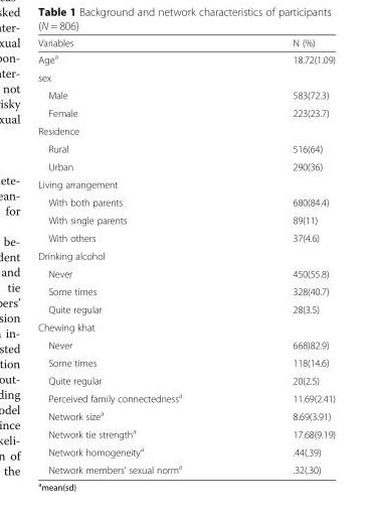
<table><thead><tr><td>Variables</td><td>N (%)</td></tr></thead><tbody><tr><td>Age<sup>a</sup></td><td>18.72(1.09)</td></tr><tr><td colspan="2">sex</td></tr><tr><td>Male</td><td>583(72.3)</td></tr><tr><td>Female</td><td>223(23.7)</td></tr><tr><td colspan="2">Residence</td></tr><tr><td>Rural</td><td>516(64)</td></tr><tr><td>Urban</td><td>290(36)</td></tr><tr><td colspan="2">Living arrangement</td></tr><tr><td>With both parents</td><td>680(84.4)</td></tr><tr><td>With single parents</td><td>89(11)</td></tr><tr><td>With others</td><td>37(4.6)</td></tr><tr><td colspan="2">Drinking alcohol</td></tr><tr><td>Never</td><td>450(55.8)</td></tr><tr><td>Some times</td><td>328(40.7)</td></tr><tr><td>Quite regular</td><td>28(3.5)</td></tr><tr><td colspan="2">Chewing khat</td></tr><tr><td>Never</td><td>668)82.9)</td></tr><tr><td>Some times</td><td>118(14.6)</td></tr><tr><td>Quite regular</td><td>20(2.5)</td></tr><tr><td>Perceived family connectedness<sup>a</sup></td><td>11.69(2.41)</td></tr><tr><td>Network size<sup>a</sup></td><td>8.69(3.91)</td></tr><tr><td>Network tie strength<sup>a</sup></td><td>17.68(9.19)</td></tr><tr><td>Network homogeneity<sup>a</sup></td><td>.44(.39)</td></tr><tr><td>Network members’ sexual norm<sup>a</sup></td><td>.32(.30)</td></tr></tbody></table>